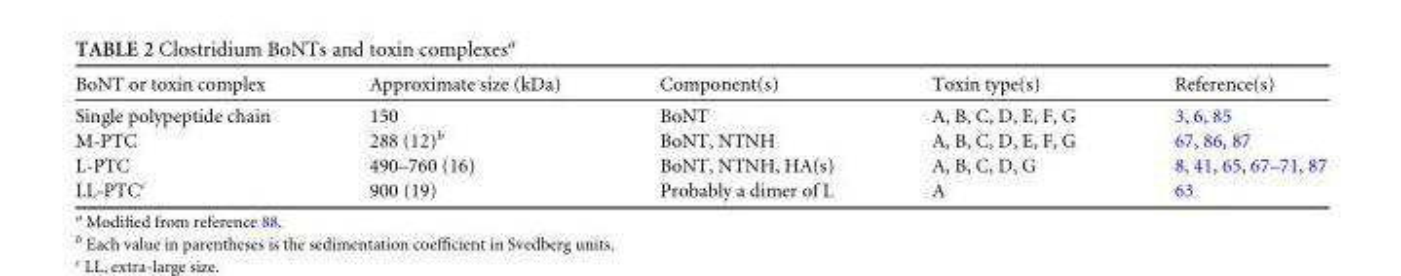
<table><thead><tr><td>BoNT or toxin complex</td><td>Approximate size (kDa)</td><td>Component(s)</td><td>Toxin type(s)</td><td>Reference(s)</td></tr></thead><tbody><tr><td>Single polypeptide chain</td><td>150</td><td>BoNT</td><td>A, B, C, D, E, F, G</td><td>3, 6, 85</td></tr><tr><td>M-PTC</td><td>288 (12)<sup>b</sup></td><td>BoNT, NTNH</td><td>A, B, C, D, E, F, G</td><td>67, 86, 87</td></tr><tr><td>L-PTC</td><td>490–760 (16)</td><td>BoNT, NTNH, HA(s)</td><td>A, B, C, D, G</td><td>8, 41, 65, 67–71, 87</td></tr><tr><td>LL-PTC<sup>c</sup></td><td>900 (19)</td><td>Probably a dimer of L</td><td>A</td><td>63</td></tr></tbody></table>